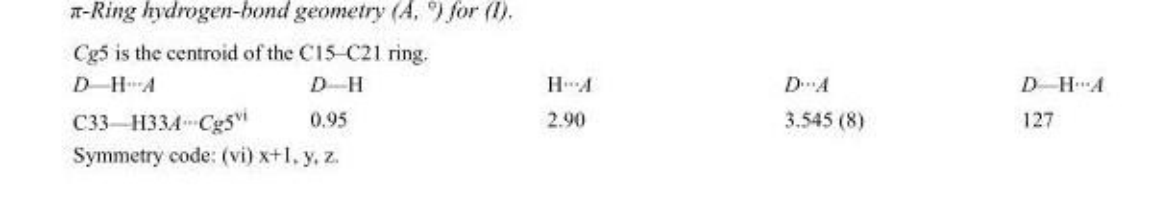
<table><tbody><tr><td>D—H···A</td><td>D—H</td><td>H···A</td><td>D···A</td><td>D—H···A</td></tr><tr><td>C33—H33A···Cg5<sup>vi</sup></td><td>0.95</td><td>2.90</td><td>3.545 (8)</td><td>127</td></tr></tbody></table>